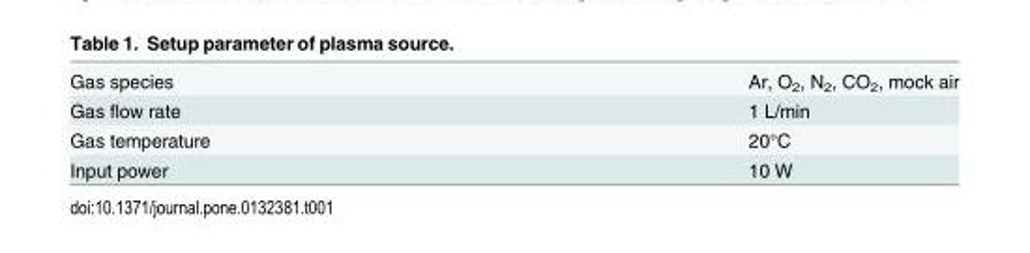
<table><tbody><tr><td>Gas species</td><td>Ar, O<sub>2</sub>, N<sub>2</sub>, CO<sub>2</sub>, mock air</td></tr><tr><td>Gas flow rate</td><td>1 L/min</td></tr><tr><td>Gas temperature</td><td>20°C</td></tr><tr><td>Input power</td><td>10 W</td></tr></tbody></table>